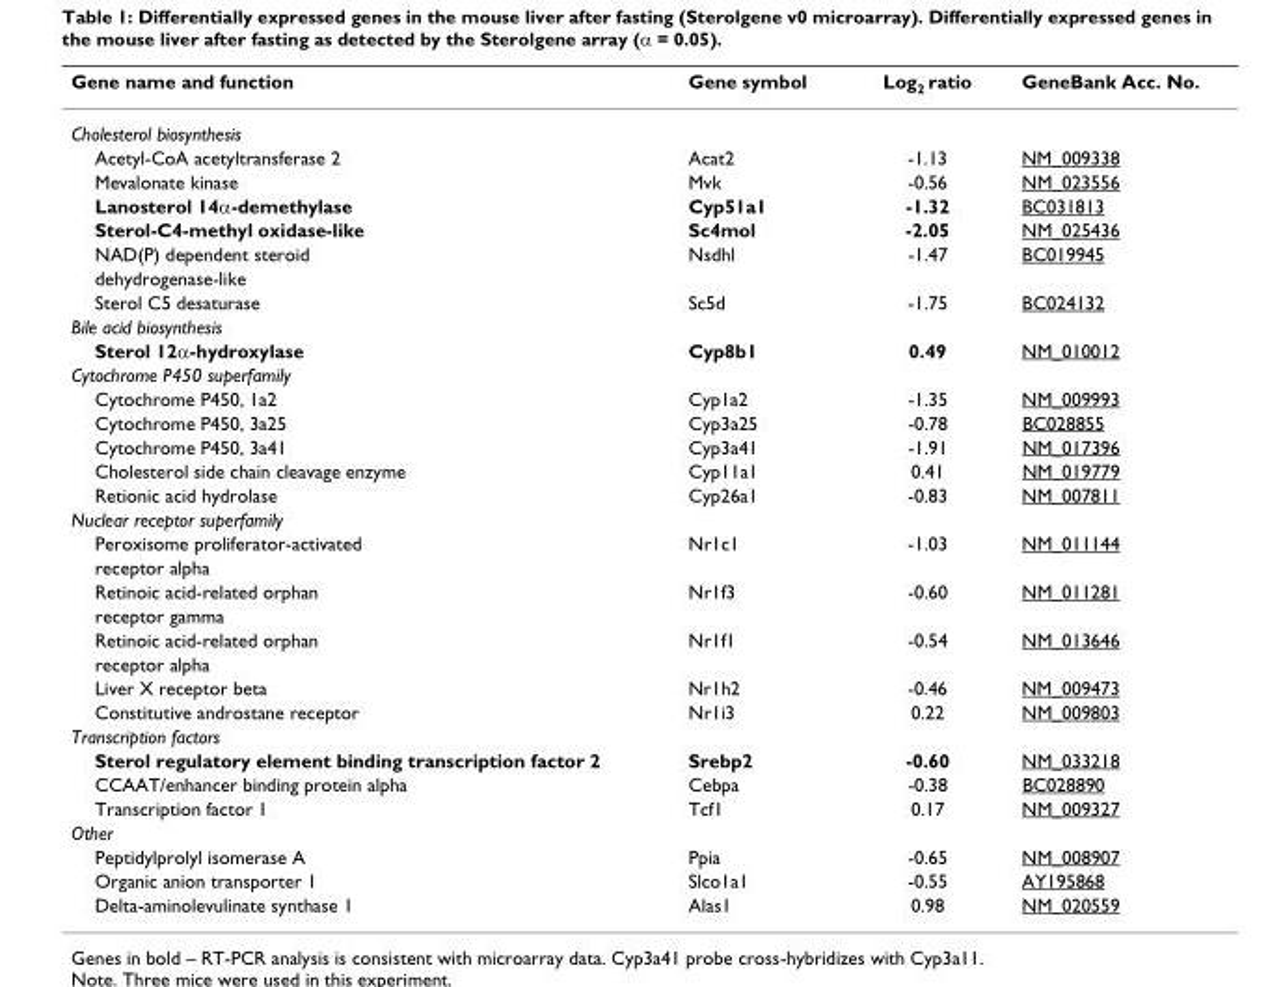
<table><thead><tr><td>Gene name and function</td><td>Gene symbol</td><td>Log<sub>2</sub> ratio</td><td>GeneBank Acc. No.</td></tr></thead><tbody><tr><td colspan="4">Cholesterol biosynthesis</td></tr><tr><td>Acetyl-CoA acetyltransferase 2</td><td>Acat2</td><td>-1.13</td><td>NM_009338</td></tr><tr><td>Mevalonate kinase</td><td>Mvk</td><td>-0.56</td><td>NM_023556</td></tr><tr><td>Lanosterol 14α-demethylase</td><td>Cyp51a1</td><td>-1.32</td><td>BC031813</td></tr><tr><td>Sterol-C4-methyl oxidase-like</td><td>Sc4mol</td><td>-2.05</td><td>NM_025436</td></tr><tr><td>NAD(P) dependent steroid</td><td>Nsdhl</td><td>-1.47</td><td>BC019945</td></tr><tr><td colspan="4">dehydrogenase-like</td></tr><tr><td>Sterol C5 desaturase</td><td>Sc5d</td><td>-1.75</td><td>BC024132</td></tr><tr><td colspan="4">Bile acid biosynthesis</td></tr><tr><td>Sterol 12α-hydroxylase</td><td>Cyp8b1</td><td>0.49</td><td>NM_010012</td></tr><tr><td colspan="4">Cytochrome P450 superfamily</td></tr><tr><td>Cytochrome P450, 1a2</td><td>Cyp1a2</td><td>-1.35</td><td>NM_009993</td></tr><tr><td>Cytochrome P450, 3a25</td><td>Cyp3a25</td><td>-0.78</td><td>BC028855</td></tr><tr><td>Cytochrome P450, 3a41</td><td>Cyp3a41</td><td>-1.91</td><td>NM_017396</td></tr><tr><td>Cholesterol side chain cleavage enzyme</td><td>Cyp11a1</td><td>0.41</td><td>NM_019779</td></tr><tr><td>Retionic acid hydrolase</td><td>Cyp26a1</td><td>-0.83</td><td>NM_007811</td></tr><tr><td colspan="4">Nuclear receptor superfamily</td></tr><tr><td>Peroxisome proliferator-activated</td><td>Nr1c1</td><td>-1.03</td><td>NM_011144</td></tr><tr><td colspan="4">receptor alpha</td></tr><tr><td>Retinoic acid-related orphan</td><td>Nr1f3</td><td>-0.60</td><td>NM_011281</td></tr><tr><td colspan="4">receptor gamma</td></tr><tr><td>Retinoic acid-related orphan</td><td>Nr1f1</td><td>-0.54</td><td>NM_013646</td></tr><tr><td colspan="4">receptor alpha</td></tr><tr><td>Liver X receptor beta</td><td>Nr1h2</td><td>-0.46</td><td>NM_009473</td></tr><tr><td>Constitutive androstane receptor</td><td>Nr1i3</td><td>0.22</td><td>NM_009803</td></tr><tr><td colspan="4">Transcription factors</td></tr><tr><td>Sterol regulatory element binding transcription factor 2</td><td>Srebp2</td><td>-0.60</td><td>NM_033218</td></tr><tr><td>CCAAT/enhancer binding protein alpha</td><td>Cebpa</td><td>-0.38</td><td>BC028890</td></tr><tr><td>Transcription factor 1</td><td>Tcf1</td><td>0.17</td><td>NM_009327</td></tr><tr><td colspan="4">Other</td></tr><tr><td>Peptidylprolyl isomerase A</td><td>Ppia</td><td>-0.65</td><td>NM_008907</td></tr><tr><td>Organic anion transporter 1</td><td>Slco1a1</td><td>-0.55</td><td>AY195868</td></tr><tr><td>Delta-aminolevulinate synthase 1</td><td>Alas1</td><td>0.98</td><td>NM_020559</td></tr></tbody></table>